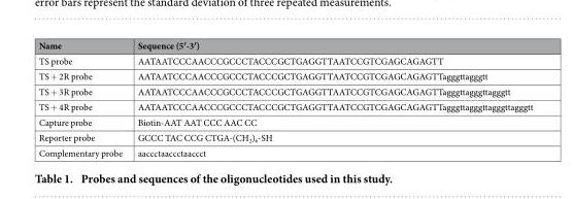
<table><thead><tr><td>Name</td><td>Sequence (5′-3′)</td></tr></thead><tbody><tr><td>TS probe</td><td>AATAATCCCAACCCGCCCTACCCGCTGAGGTTAATCCGTCGAGCAGAGTT</td></tr><tr><td>TS + 2R probe</td><td>AATAATCCCAACCCGCCCTACCCGCTGAGGTTAATCCGTCGAGCAGAGTTagggttagggtt</td></tr><tr><td>TS + 3R probe</td><td>AATAATCCCAACCCGCCCTACCCGCTGAGGTTAATCCGTCGAGCAGAGTTagggttagggttagggtt</td></tr><tr><td>TS + 4R probe</td><td>AATAATCCCAACCCGCCCTACCCGCTGAGGTTAATCCGTCGAGCAGAGTTagggttagggttagggttagggtt</td></tr><tr><td>Capture probe</td><td>Biotin-AAT AAT CCC AAC CC</td></tr><tr><td>Reporter probe</td><td>GCCC TAC CCG CTGA-(CH<sub>2</sub>)<sub>6</sub>-SH</td></tr><tr><td>Complementary probe</td><td>aaccctaaccctaaccct</td></tr></tbody></table>